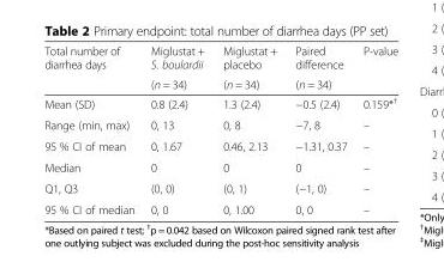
<table><thead><tr><td rowspan="2">Total number of diarrhea days</td><td rowspan="2">Miglustat + S. boulardii (n = 34)</td><td rowspan="2">Miglustat + placebo (n = 34)</td><td rowspan="2">Paired difference (n = 34)</td><td rowspan="2">P-value</td></tr><tr></tr></thead><tbody><tr><td>Mean (SD)</td><td>0.8 (2.4)</td><td>1.3 (2.4)</td><td>−0.5 (2.4)</td><td>0.159*<sup>†</sup></td></tr><tr><td>Range (min, max)</td><td>0, 13</td><td>0, 8</td><td>−7, 8</td><td>–</td></tr><tr><td>95 % CI of mean</td><td>0, 1.67</td><td>0.46, 2.13</td><td>−1.31, 0.37</td><td>–</td></tr><tr><td>Median</td><td>0</td><td>0</td><td>0</td><td>–</td></tr><tr><td>Q1, Q3</td><td>(0, 0)</td><td>(0, 1)</td><td>(−1, 0)</td><td>–</td></tr><tr><td>95 % CI of median</td><td>0, 0</td><td>0, 1.00</td><td>0, 0</td><td>–</td></tr></tbody></table>